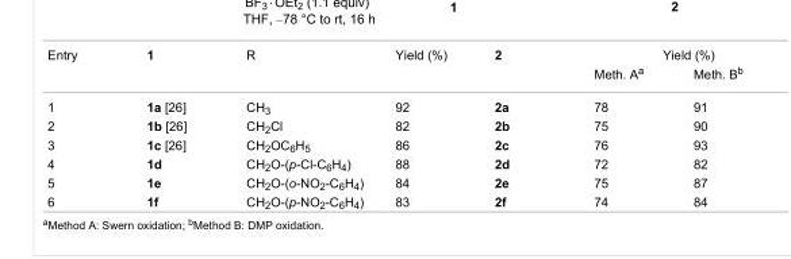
<table><tbody><tr><td>Entry</td><td>1</td><td>R</td><td>Yield (%)</td><td>2</td><td colspan="2">Yield (%)</td></tr><tr><td colspan="5"></td><td>Meth. A<sup>a</sup></td><td>Meth. B<sup>b</sup></td></tr><tr><td>1</td><td>1a [26]</td><td>CH<sub>3</sub></td><td>92</td><td>2a</td><td>78</td><td>91</td></tr><tr><td>2</td><td>1b [26]</td><td>CH<sub>2</sub>Cl</td><td>82</td><td>2b</td><td>75</td><td>90</td></tr><tr><td>3</td><td>1c [26]</td><td>CH<sub>2</sub>OC<sub>6</sub>H<sub>5</sub></td><td>86</td><td>2c</td><td>76</td><td>93</td></tr><tr><td>4</td><td>1d</td><td>CH<sub>2</sub>O-(p-Cl-C<sub>6</sub>H<sub>4</sub>)</td><td>88</td><td>2d</td><td>72</td><td>82</td></tr><tr><td>5</td><td>1e</td><td>CH<sub>2</sub>O-(o-NO<sub>2</sub>-C<sub>6</sub>H<sub>4</sub>)</td><td>84</td><td>2e</td><td>75</td><td>87</td></tr><tr><td>6</td><td>1f</td><td>CH<sub>2</sub>O-(p-NO<sub>2</sub>-C<sub>6</sub>H<sub>4</sub>)</td><td>83</td><td>2f</td><td>74</td><td>84</td></tr></tbody></table>